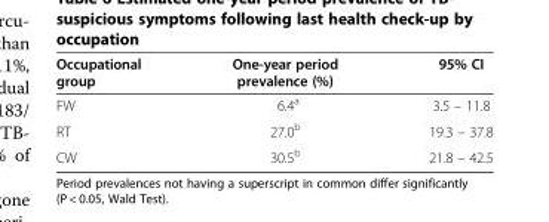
<table><thead><tr><td>Occupational group</td><td>One-year period prevalence (%)</td><td>95% CI</td></tr></thead><tbody><tr><td>FW</td><td>6.4<sup>a</sup></td><td>3.5 – 11.8</td></tr><tr><td>RT</td><td>27.0<sup>b</sup></td><td>19.3 – 37.8</td></tr><tr><td>CW</td><td>30.5<sup>b</sup></td><td>21.8 – 42.5</td></tr></tbody></table>